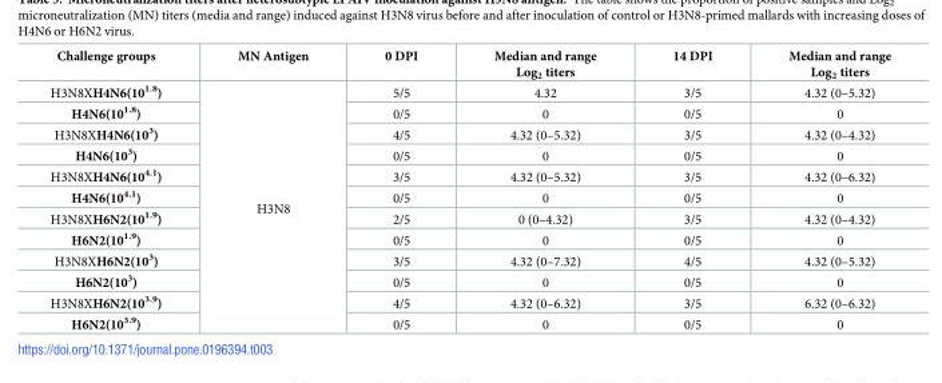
<table><thead><tr><td>Challenge groups</td><td>MN Antigen</td><td>0 DPI</td><td>Median and range Log<sub>2</sub> titers</td><td>14 DPI</td><td>Median and range Log<sub>2</sub> titers</td></tr></thead><tbody><tr><td>H3N8XH4N6(10<sup>1.8</sup>)</td><td rowspan="12">H3N8</td><td>5/5</td><td>4.32</td><td>3/5</td><td>4.32 (0–5.32)</td></tr><tr><td>H4N6(10<sup>1.8</sup>)</td><td>0/5</td><td>0</td><td>0/5</td><td>0</td></tr><tr><td>H3N8XH4N6(10<sup>3</sup>)</td><td>4/5</td><td>4.32 (0–5.32)</td><td>3/5</td><td>4.32 (0–4.32)</td></tr><tr><td>H4N6(10<sup>3</sup>)</td><td>0/5</td><td>0</td><td>0/5</td><td>0</td></tr><tr><td>H3N8XH4N6(10<sup>4.1</sup>)</td><td>3/5</td><td>4.32 (0–5.32)</td><td>3/5</td><td>4.32 (0–6.32)</td></tr><tr><td>H4N6(10<sup>4.1</sup>)</td><td>0/5</td><td>0</td><td>0/5</td><td>0</td></tr><tr><td>H3N8XH6N2(10<sup>1.9</sup>)</td><td>2/5</td><td>0 (0–4.32)</td><td>3/5</td><td>4.32 (0–4.32)</td></tr><tr><td>H6N2(10<sup>1.9</sup>)</td><td>0/5</td><td>0</td><td>0/5</td><td>0</td></tr><tr><td>H3N8XH6N2(10<sup>3</sup>)</td><td>3/5</td><td>4.32 (0–7.32)</td><td>4/5</td><td>4.32 (0–5.32)</td></tr><tr><td>H6N2(10<sup>3</sup>)</td><td>0/5</td><td>0</td><td>0/5</td><td>0</td></tr><tr><td>H3N8XH6N2(10<sup>3.9</sup>)</td><td>4/5</td><td>4.32 (0–6.32)</td><td>3/5</td><td>6.32 (0–6.32)</td></tr><tr><td>H6N2(10<sup>3.9</sup>)</td><td>0/5</td><td>0</td><td>0/5</td><td>0</td></tr></tbody></table>